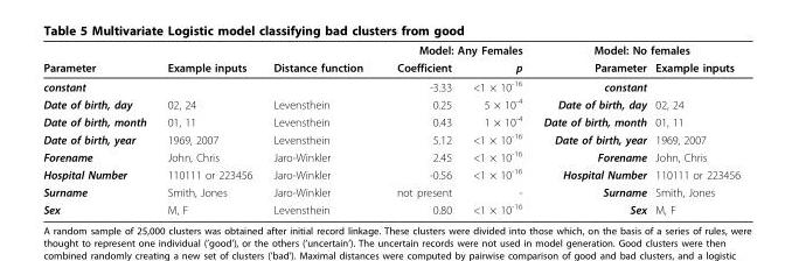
<table><thead><tr><td rowspan="2">Parameter</td><td rowspan="2">Example inputs</td><td rowspan="2">Distance function</td><td colspan="2">Model: Any Females</td><td colspan="2">Model: No females</td></tr><tr><td>Coefficient</td><td>p</td><td>Parameter</td><td>Example inputs</td></tr></thead><tbody><tr><td>constant</td><td></td><td></td><td>-3.33</td><td>&lt;1 × 10<sup>-16</sup></td><td>constant</td><td></td></tr><tr><td>Date of birth, day</td><td>02, 24</td><td>Levensthein</td><td>0.25</td><td>5 × 10<sup>-4</sup></td><td>Date of birth, day</td><td>02, 24</td></tr><tr><td>Date of birth, month</td><td>01, 11</td><td>Levensthein</td><td>0.43</td><td>1 × 10<sup>-4</sup></td><td>Date of birth, month</td><td>01, 11</td></tr><tr><td>Date of birth, year</td><td>1969, 2007</td><td>Levensthein</td><td>5.12</td><td>&lt;1 × 10<sup>-16</sup></td><td>Date of birth, year</td><td>1969, 2007</td></tr><tr><td>Forename</td><td>John, Chris</td><td>Jaro-Winkler</td><td>2.45</td><td>&lt;1 × 10<sup>-16</sup></td><td>Forename</td><td>John, Chris</td></tr><tr><td>Hospital Number</td><td>110111 or 223456</td><td>Jaro-Winkler</td><td>-0.56</td><td>&lt;1 × 10<sup>-16</sup></td><td>Hospital Number</td><td>110111 or 223456</td></tr><tr><td>Surname</td><td>Smith, Jones</td><td>Jaro-Winkler</td><td>not present</td><td>-</td><td>Surname</td><td>Smith, Jones</td></tr><tr><td>Sex</td><td>M, F</td><td>Levensthein</td><td>0.80</td><td>&lt;1 × 10<sup>-16</sup></td><td>Sex</td><td>M, F</td></tr></tbody></table>